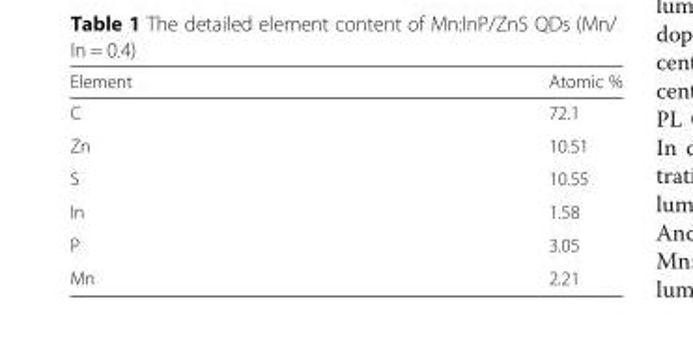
<table><thead><tr><td>Element</td><td>Atomic %</td></tr></thead><tbody><tr><td>C</td><td>72.1</td></tr><tr><td>Zn</td><td>10.51</td></tr><tr><td>S</td><td>10.55</td></tr><tr><td>In</td><td>1.58</td></tr><tr><td>P</td><td>3.05</td></tr><tr><td>Mn</td><td>2.21</td></tr></tbody></table>